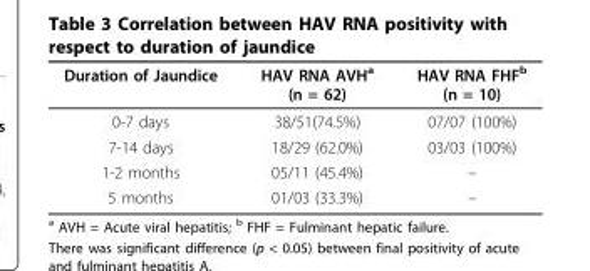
<table><thead><tr><td>Duration of Jaundice</td><td>HAV RNA AVH<sup>a</sup> (n = 62)</td><td>HAV RNA FHF<sup>b</sup> (n = 10)</td></tr></thead><tbody><tr><td>0-7 days</td><td>38/51(74.5%)</td><td>07/07 (100%)</td></tr><tr><td>7-14 days</td><td>18/29 (62.0%)</td><td>03/03 (100%)</td></tr><tr><td>1-2 months</td><td>05/11 (45.4%)</td><td>–</td></tr><tr><td>5 months</td><td>01/03 (33.3%)</td><td>–</td></tr></tbody></table>